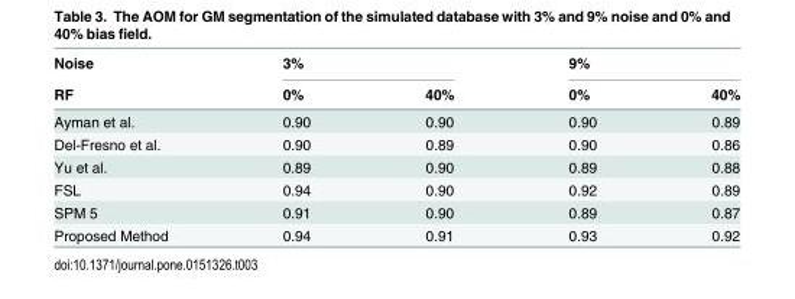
<table><thead><tr><td rowspan="2">Noise RF</td><td colspan="2">3%</td><td colspan="2">9%</td></tr><tr><td>0%</td><td>40%</td><td>0%</td><td>40%</td></tr></thead><tbody><tr><td>Ayman et al.</td><td>0.90</td><td>0.90</td><td>0.90</td><td>0.89</td></tr><tr><td>Del-Fresno et al.</td><td>0.90</td><td>0.89</td><td>0.90</td><td>0.86</td></tr><tr><td>Yu et al.</td><td>0.89</td><td>0.90</td><td>0.89</td><td>0.88</td></tr><tr><td>FSL</td><td>0.94</td><td>0.90</td><td>0.92</td><td>0.89</td></tr><tr><td>SPM 5</td><td>0.91</td><td>0.90</td><td>0.89</td><td>0.87</td></tr><tr><td>Proposed Method</td><td>0.94</td><td>0.91</td><td>0.93</td><td>0.92</td></tr></tbody></table>